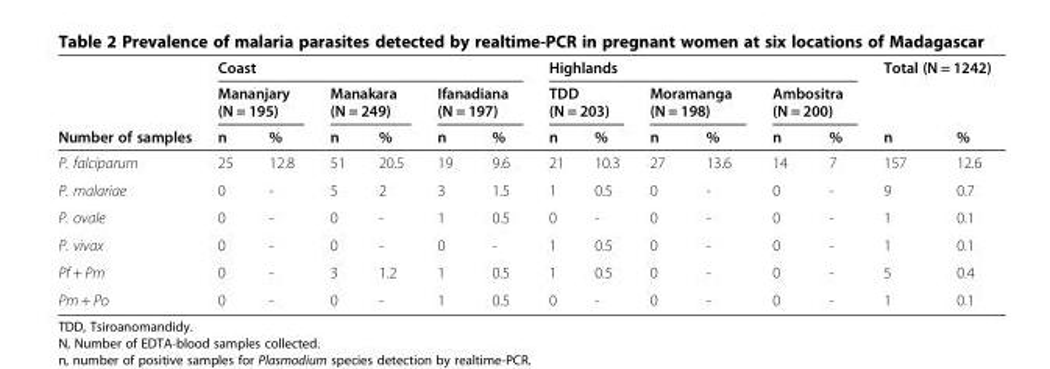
<table><thead><tr><td rowspan="3">Number of samples</td><td colspan="6">Coast</td><td colspan="6">Highlands</td><td colspan="2">Total (N = 1242)</td></tr><tr><td colspan="2">Mananjary (N = 195)</td><td colspan="2">Manakara (N = 249)</td><td colspan="2">Ifanadiana (N = 197)</td><td colspan="2">TDD (N = 203)</td><td colspan="2">Moramanga (N = 198)</td><td colspan="2">Ambositra (N = 200)</td><td rowspan="2">n</td><td rowspan="2">%</td></tr><tr><td>n</td><td>%</td><td>n</td><td>%</td><td>n</td><td>%</td><td>n</td><td>%</td><td>n</td><td>%</td><td>n</td><td>%</td></tr></thead><tbody><tr><td>P. falciparum</td><td>25</td><td>12.8</td><td>51</td><td>20.5</td><td>19</td><td>9.6</td><td>21</td><td>10.3</td><td>27</td><td>13.6</td><td>14</td><td>7</td><td>157</td><td>12.6</td></tr><tr><td>P. malariae</td><td>0</td><td>-</td><td>5</td><td>2</td><td>3</td><td>1.5</td><td>1</td><td>0.5</td><td>0</td><td>-</td><td>0</td><td>-</td><td>9</td><td>0.7</td></tr><tr><td>P. ovale</td><td>0</td><td>-</td><td>0</td><td>-</td><td>1</td><td>0.5</td><td>0</td><td>-</td><td>0</td><td>-</td><td>0</td><td>-</td><td>1</td><td>0.1</td></tr><tr><td>P. vivax</td><td>0</td><td>-</td><td>0</td><td>-</td><td>0</td><td>-</td><td>1</td><td>0.5</td><td>0</td><td>-</td><td>0</td><td>-</td><td>1</td><td>0.1</td></tr><tr><td>Pf + Pm</td><td>0</td><td>-</td><td>3</td><td>1.2</td><td>1</td><td>0.5</td><td>1</td><td>0.5</td><td>0</td><td>-</td><td>0</td><td>-</td><td>5</td><td>0.4</td></tr><tr><td>Pm + Po</td><td>0</td><td>-</td><td>0</td><td>-</td><td>1</td><td>0.5</td><td>0</td><td>-</td><td>0</td><td>-</td><td>0</td><td>-</td><td>1</td><td>0.1</td></tr></tbody></table>